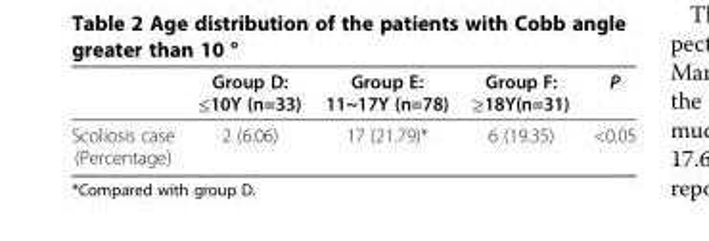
<table><thead><tr><td></td><td>Group D: ≤10Y (n=33)</td><td>Group E: 11~17Y (n=78)</td><td>Group F: ≥18Y(n=31)</td><td>P</td></tr></thead><tbody><tr><td>Scoliosis case (Percentage)</td><td>2 (6.06)</td><td>17 (21.79)*</td><td>6 (19.35)</td><td>&lt;0.05</td></tr></tbody></table>